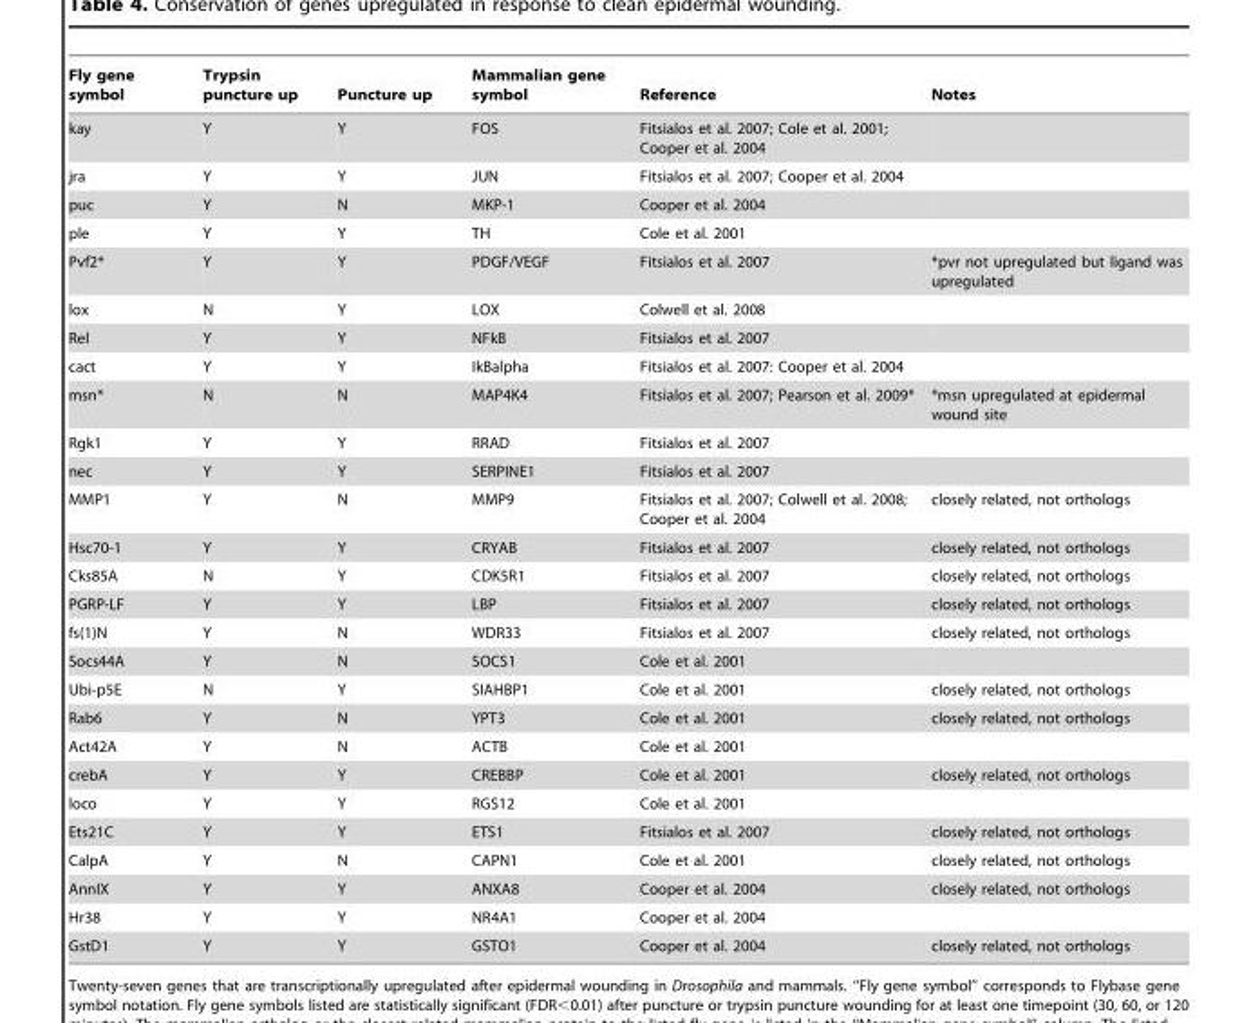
<table><thead><tr><td>Fly gene symbol</td><td>Trypsin puncture up</td><td>Puncture up</td><td>Mammalian gene symbol</td><td>Reference</td><td>Notes</td></tr></thead><tbody><tr><td>kay</td><td>Y</td><td>Y</td><td>FOS</td><td>Fitsialos et al. 2007; Cole et al. 2001; Cooper et al. 2004</td><td></td></tr><tr><td>jra</td><td>Y</td><td>Y</td><td>JUN</td><td>Fitsialos et al. 2007; Cooper et al. 2004</td><td></td></tr><tr><td>puc</td><td>Y</td><td>N</td><td>MKP-1</td><td>Cooper et al. 2004</td><td></td></tr><tr><td>ple</td><td>Y</td><td>Y</td><td>TH</td><td>Cole et al. 2001</td><td></td></tr><tr><td>Pvf2*</td><td>Y</td><td>Y</td><td>PDGF/VEGF</td><td>Fitsialos et al. 2007</td><td>*pvr not upregulated but ligand was upregulated</td></tr><tr><td>lox</td><td>N</td><td>Y</td><td>LOX</td><td>Colwell et al. 2008</td><td></td></tr><tr><td>Rel</td><td>Y</td><td>Y</td><td>NFkB</td><td>Fitsialos et al. 2007</td><td></td></tr><tr><td>cact</td><td>Y</td><td>Y</td><td>IkBalpha</td><td>Fitsialos et al. 2007: Cooper et al. 2004</td><td></td></tr><tr><td>msn*</td><td>N</td><td>N</td><td>MAP4K4</td><td>Fitsialos et al. 2007; Pearson et al. 2009*</td><td>*msn upregulated at epidermal wound site</td></tr><tr><td>Rgk1</td><td>Y</td><td>Y</td><td>RRAD</td><td>Fitsialos et al. 2007</td><td></td></tr><tr><td>nec</td><td>Y</td><td>Y</td><td>SERPINE1</td><td>Fitsialos et al. 2007</td><td></td></tr><tr><td>MMP1</td><td>Y</td><td>N</td><td>MMP9</td><td>Fitsialos et al. 2007; Colwell et al. 2008; Cooper et al. 2004</td><td>closely related, not orthologs</td></tr><tr><td>Hsc70-1</td><td>Y</td><td>Y</td><td>CRYAB</td><td>Fitsialos et al. 2007</td><td>closely related, not orthologs</td></tr><tr><td>Cks85A</td><td>N</td><td>Y</td><td>CDK5R1</td><td>Fitsialos et al. 2007</td><td>closely related, not orthologs</td></tr><tr><td>PGRP-LF</td><td>Y</td><td>Y</td><td>LBP</td><td>Fitsialos et al. 2007</td><td>closely related, not orthologs</td></tr><tr><td>fs(1)N</td><td>Y</td><td>N</td><td>WDR33</td><td>Fitsialos et al. 2007</td><td>closely related, not orthologs</td></tr><tr><td>Socs44A</td><td>Y</td><td>N</td><td>SOCS1</td><td>Cole et al. 2001</td><td></td></tr><tr><td>Ubi-p5E</td><td>N</td><td>Y</td><td>SIAHBP1</td><td>Cole et al. 2001</td><td>closely related, not orthologs</td></tr><tr><td>Rab6</td><td>Y</td><td>N</td><td>YPT3</td><td>Cole et al. 2001</td><td>closely related, not orthologs</td></tr><tr><td>Act42A</td><td>Y</td><td>N</td><td>ACTB</td><td>Cole et al. 2001</td><td></td></tr><tr><td>crebA</td><td>Y</td><td>Y</td><td>CREBBP</td><td>Cole et al. 2001</td><td>closely related, not orthologs</td></tr><tr><td>loco</td><td>Y</td><td>Y</td><td>RGS12</td><td>Cole et al. 2001</td><td></td></tr><tr><td>Ets21C</td><td>Y</td><td>Y</td><td>ETS1</td><td>Fitsialos et al. 2007</td><td>closely related, not orthologs</td></tr><tr><td>CalpA</td><td>Y</td><td>N</td><td>CAPN1</td><td>Cole et al. 2001</td><td>closely related, not orthologs</td></tr><tr><td>AnnIX</td><td>Y</td><td>Y</td><td>ANXA8</td><td>Cooper et al. 2004</td><td>closely related, not orthologs</td></tr><tr><td>Hr38</td><td>Y</td><td>Y</td><td>NR4A1</td><td>Cooper et al. 2004</td><td></td></tr><tr><td>GstD1</td><td>Y</td><td>Y</td><td>GSTO1</td><td>Cooper et al. 2004</td><td>closely related, not orthologs</td></tr></tbody></table>